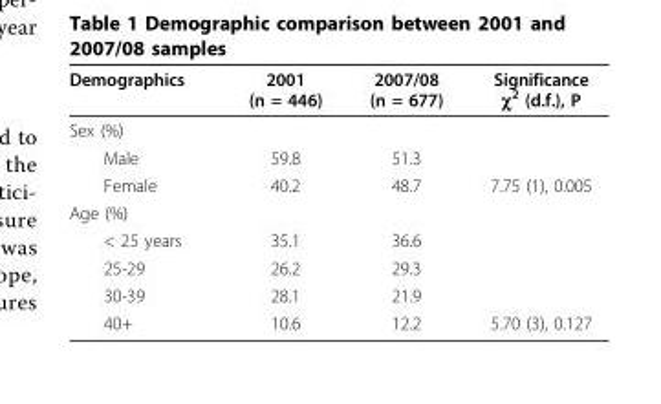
<table><thead><tr><td>Demographics</td><td>2001 (n = 446)</td><td>2007/08 (n = 677)</td><td>Significance χ<sup>2</sup> (d.f.), P</td></tr></thead><tbody><tr><td colspan="4">Sex (%)</td></tr><tr><td>Male</td><td>59.8</td><td>51.3</td><td></td></tr><tr><td>Female</td><td>40.2</td><td>48.7</td><td>7.75 (1), 0.005</td></tr><tr><td colspan="4">Age (%)</td></tr><tr><td>&lt; 25 years</td><td>35.1</td><td>36.6</td><td></td></tr><tr><td>25-29</td><td>26.2</td><td>29.3</td><td></td></tr><tr><td>30-39</td><td>28.1</td><td>21.9</td><td></td></tr><tr><td>40+</td><td>10.6</td><td>12.2</td><td>5.70 (3), 0.127</td></tr></tbody></table>